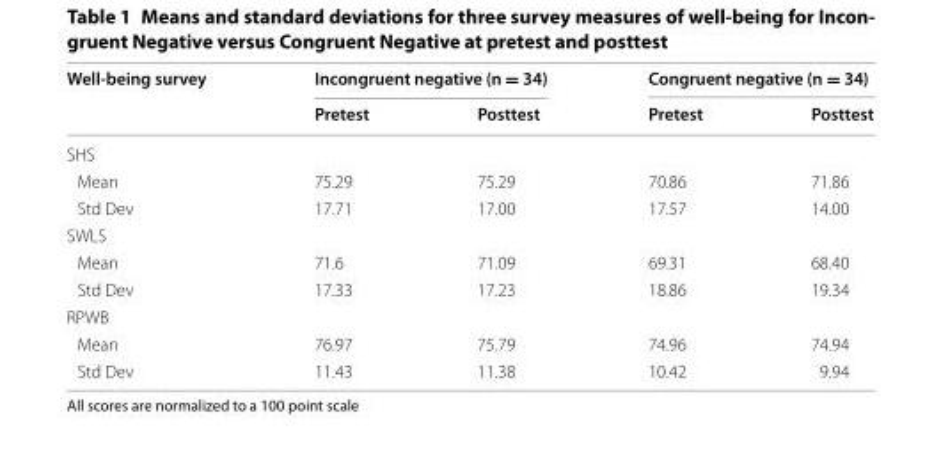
<table><thead><tr><td rowspan="2">Well-being survey</td><td colspan="2">Incongruent negative (n = 34)</td><td colspan="2">Congruent negative (n = 34)</td></tr><tr><td>Pretest</td><td>Posttest</td><td>Pretest</td><td>Posttest</td></tr></thead><tbody><tr><td colspan="5">SHS</td></tr><tr><td>Mean</td><td>75.29</td><td>75.29</td><td>70.86</td><td>71.86</td></tr><tr><td>Std Dev</td><td>17.71</td><td>17.00</td><td>17.57</td><td>14.00</td></tr><tr><td colspan="5">SWLS</td></tr><tr><td>Mean</td><td>71.6</td><td>71.09</td><td>69.31</td><td>68.40</td></tr><tr><td>Std Dev</td><td>17.33</td><td>17.23</td><td>18.86</td><td>19.34</td></tr><tr><td colspan="5">RPWB</td></tr><tr><td>Mean</td><td>76.97</td><td>75.79</td><td>74.96</td><td>74.94</td></tr><tr><td>Std Dev</td><td>11.43</td><td>11.38</td><td>10.42</td><td>9.94</td></tr></tbody></table>